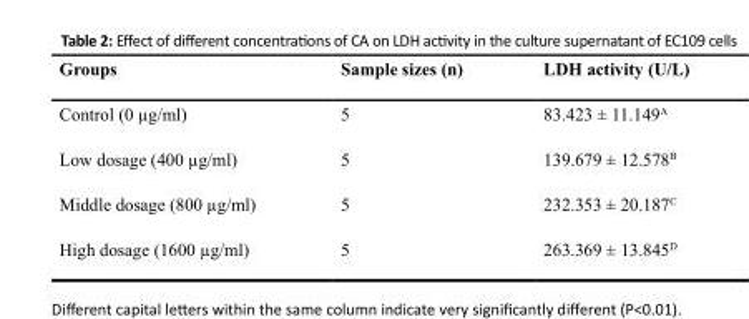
<table><thead><tr><td>Groups</td><td>Sample sizes (n)</td><td>LDH activity (U/L)</td></tr></thead><tbody><tr><td>Control (0 µg/ml)</td><td>5</td><td>83.423 ± 11.149<sup>A</sup></td></tr><tr><td>Low dosage (400 µg/ml)</td><td>5</td><td>139.679 ± 12.578<sup>B</sup></td></tr><tr><td>Middle dosage (800 µg/ml)</td><td>5</td><td>232.353 ± 20.187<sup>C</sup></td></tr><tr><td>High dosage (1600 µg/ml)</td><td>5</td><td>263.369 ± 13.845<sup>D</sup></td></tr></tbody></table>